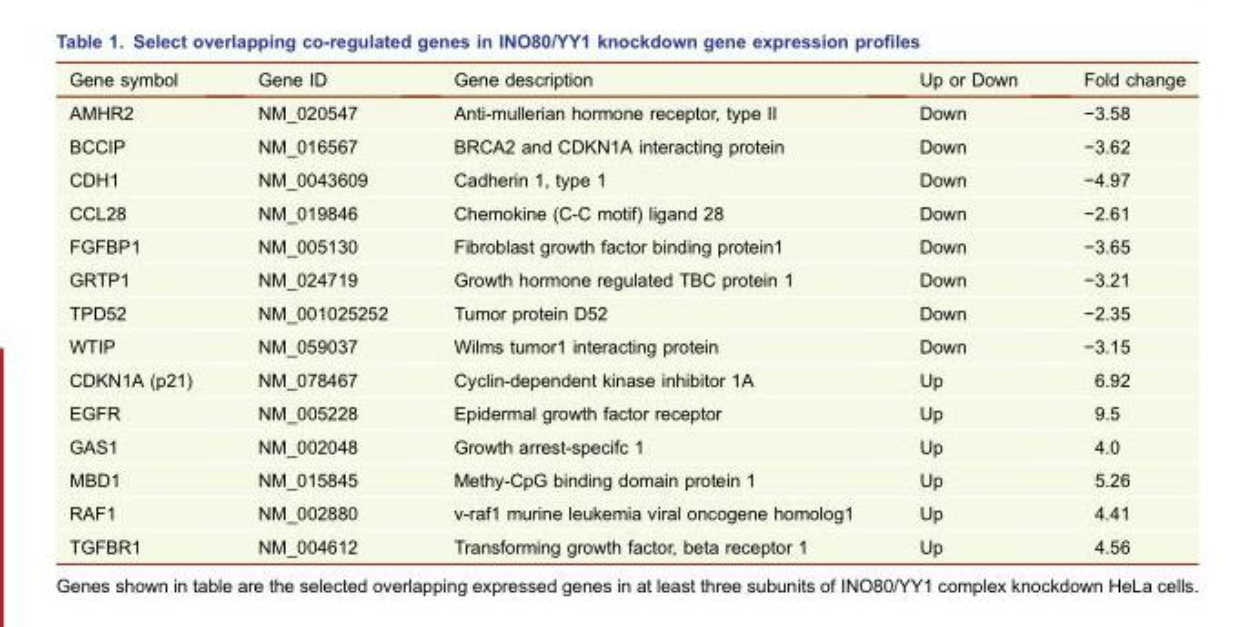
<table><thead><tr><td>Gene symbol</td><td>Gene ID</td><td>Gene description</td><td>Up or Down</td><td>Fold change</td></tr></thead><tbody><tr><td>AMHR2</td><td>NM_020547</td><td>Anti-mullerian hormone receptor, type II</td><td>Down</td><td>−3.58</td></tr><tr><td>BCCIP</td><td>NM_016567</td><td>BRCA2 and CDKN1A interacting protein</td><td>Down</td><td>−3.62</td></tr><tr><td>CDH1</td><td>NM_0043609</td><td>Cadherin 1, type 1</td><td>Down</td><td>−4.97</td></tr><tr><td>CCL28</td><td>NM_019846</td><td>Chemokine (C-C motif) ligand 28</td><td>Down</td><td>−2.61</td></tr><tr><td>FGFBP1</td><td>NM_005130</td><td>Fibroblast growth factor binding protein1</td><td>Down</td><td>−3.65</td></tr><tr><td>GRTP1</td><td>NM_024719</td><td>Growth hormone regulated TBC protein 1</td><td>Down</td><td>−3.21</td></tr><tr><td>TPD52</td><td>NM_001025252</td><td>Tumor protein D52</td><td>Down</td><td>−2.35</td></tr><tr><td>WTIP</td><td>NM_059037</td><td>Wilms tumor1 interacting protein</td><td>Down</td><td>−3.15</td></tr><tr><td>CDKN1A (p21)</td><td>NM_078467</td><td>Cyclin-dependent kinase inhibitor 1A</td><td>Up</td><td>6.92</td></tr><tr><td>EGFR</td><td>NM_005228</td><td>Epidermal growth factor receptor</td><td>Up</td><td>9.5</td></tr><tr><td>GAS1</td><td>NM_002048</td><td>Growth arrest-specifc 1</td><td>Up</td><td>4.0</td></tr><tr><td>MBD1</td><td>NM_015845</td><td>Methy-CpG binding domain protein 1</td><td>Up</td><td>5.26</td></tr><tr><td>RAF1</td><td>NM_002880</td><td>v-raf1 murine leukemia viral oncogene homolog1</td><td>Up</td><td>4.41</td></tr><tr><td>TGFBR1</td><td>NM_004612</td><td>Transforming growth factor, beta receptor 1</td><td>Up</td><td>4.56</td></tr></tbody></table>